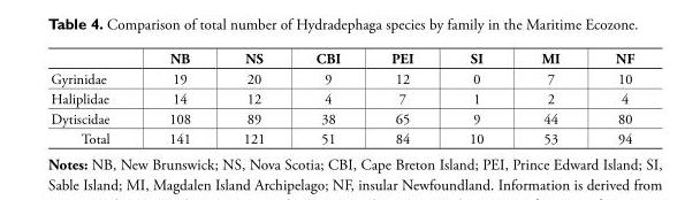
<table><thead><tr><td></td><td>NB</td><td>NS</td><td>CBI</td><td>PEI</td><td>SI</td><td>MI</td><td>NF</td></tr></thead><tbody><tr><td>Gyrinidae</td><td>19</td><td>20</td><td>9</td><td>12</td><td>0</td><td>7</td><td>10</td></tr><tr><td>Haliplidae</td><td>14</td><td>12</td><td>4</td><td>7</td><td>1</td><td>2</td><td>4</td></tr><tr><td>Dytiscidae</td><td>108</td><td>89</td><td>38</td><td>65</td><td>9</td><td>44</td><td>80</td></tr><tr><td>Total</td><td>141</td><td>121</td><td>51</td><td>84</td><td>10</td><td>53</td><td>94</td></tr></tbody></table>